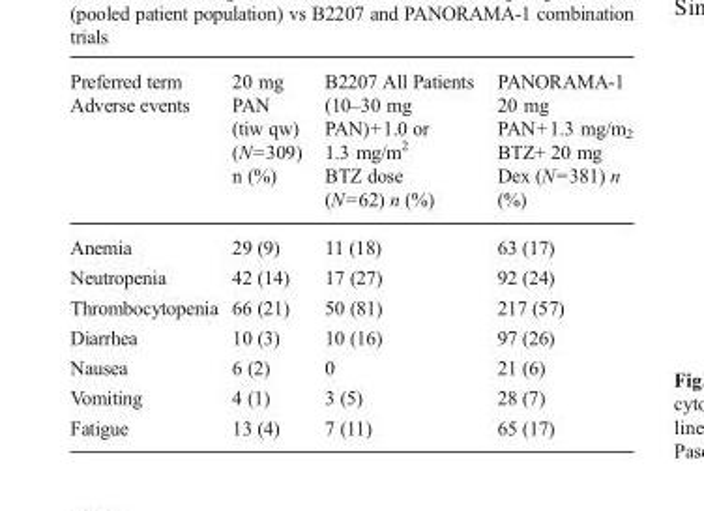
<table><thead><tr><td>Preferred term Adverse events</td><td>20 mg PAN (tiw qw) (N=309) n (%)</td><td>B2207 All Patients (10–30 mg PAN)+1.0 or 1.3 mg/m<sup>2</sup> BTZ dose (N=62) n (%)</td><td>PANORAMA-1 20 mg PAN+1.3 mg/m<sub>2</sub> BTZ+ 20 mg Dex (N=381) n (%)</td></tr></thead><tbody><tr><td>Anemia</td><td>29 (9)</td><td>11 (18)</td><td>63 (17)</td></tr><tr><td>Neutropenia</td><td>42 (14)</td><td>17 (27)</td><td>92 (24)</td></tr><tr><td>Thrombocytopenia</td><td>66 (21)</td><td>50 (81)</td><td>217 (57)</td></tr><tr><td>Diarrhea</td><td>10 (3)</td><td>10 (16)</td><td>97 (26)</td></tr><tr><td>Nausea</td><td>6 (2)</td><td>0</td><td>21 (6)</td></tr><tr><td>Vomiting</td><td>4 (1)</td><td>3 (5)</td><td>28 (7)</td></tr><tr><td>Fatigue</td><td>13 (4)</td><td>7 (11)</td><td>65 (17)</td></tr></tbody></table>